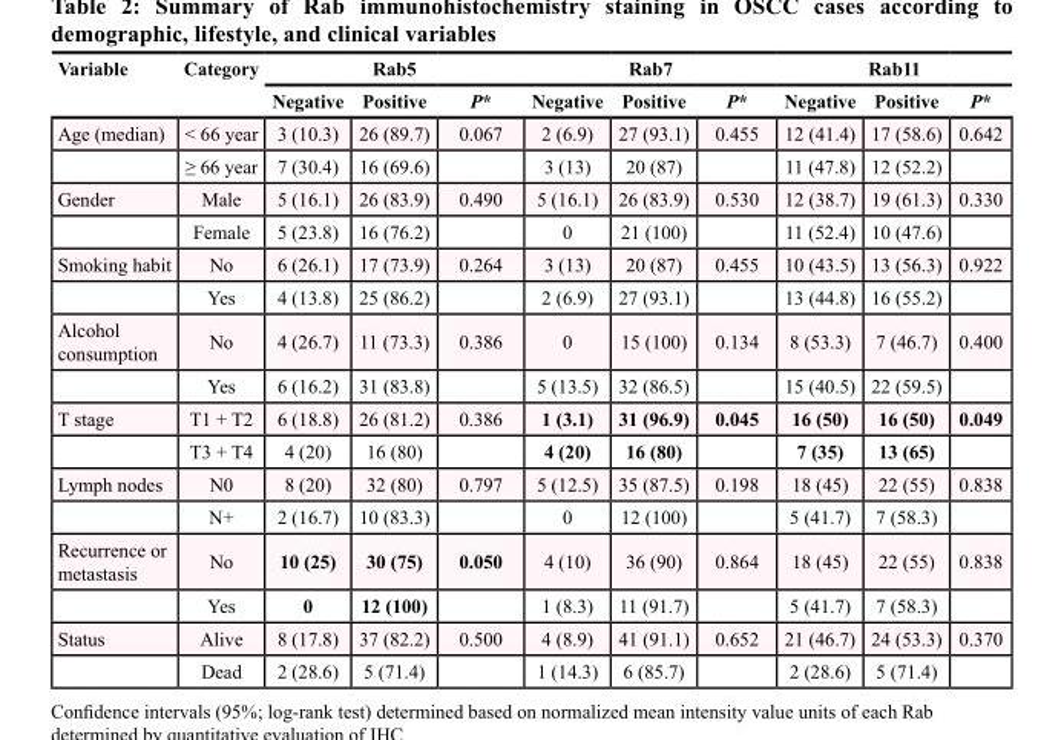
<table><thead><tr><td rowspan="2">Variable</td><td rowspan="2">Category</td><td colspan="3">Rab5</td><td colspan="3">Rab7</td><td colspan="3">Rab11</td></tr><tr><td>Negative</td><td>Positive</td><td>P*</td><td>Negative</td><td>Positive</td><td>P*</td><td>Negative</td><td>Positive</td><td>P*</td></tr></thead><tbody><tr><td rowspan="2">Age (median)</td><td>&lt; 66 year</td><td>3 (10.3)</td><td>26 (89.7)</td><td>0.067</td><td>2 (6.9)</td><td>27 (93.1)</td><td>0.455</td><td>12 (41.4)</td><td>17 (58.6)</td><td>0.642</td></tr><tr><td>≥ 66 year</td><td>7 (30.4)</td><td>16 (69.6)</td><td></td><td>3 (13)</td><td>20 (87)</td><td></td><td>11 (47.8)</td><td>12 (52.2)</td><td></td></tr><tr><td rowspan="2">Gender</td><td>Male</td><td>5 (16.1)</td><td>26 (83.9)</td><td>0.490</td><td>5 (16.1)</td><td>26 (83.9)</td><td>0.530</td><td>12 (38.7)</td><td>19 (61.3)</td><td>0.330</td></tr><tr><td>Female</td><td>5 (23.8)</td><td>16 (76.2)</td><td></td><td>0</td><td>21 (100)</td><td></td><td>11 (52.4)</td><td>10 (47.6)</td><td></td></tr><tr><td rowspan="2">Smoking habit</td><td>No</td><td>6 (26.1)</td><td>17 (73.9)</td><td>0.264</td><td>3 (13)</td><td>20 (87)</td><td>0.455</td><td>10 (43.5)</td><td>13 (56.3)</td><td>0.922</td></tr><tr><td>Yes</td><td>4 (13.8)</td><td>25 (86.2)</td><td></td><td>2 (6.9)</td><td>27 (93.1)</td><td></td><td>13 (44.8)</td><td>16 (55.2)</td><td></td></tr><tr><td rowspan="2">Alcohol consumption</td><td>No</td><td>4 (26.7)</td><td>11 (73.3)</td><td>0.386</td><td>0</td><td>15 (100)</td><td>0.134</td><td>8 (53.3)</td><td>7 (46.7)</td><td>0.400</td></tr><tr><td>Yes</td><td>6 (16.2)</td><td>31 (83.8)</td><td></td><td>5 (13.5)</td><td>32 (86.5)</td><td></td><td>15 (40.5)</td><td>22 (59.5)</td><td></td></tr><tr><td rowspan="2">T stage</td><td>T1 + T2</td><td>6 (18.8)</td><td>26 (81.2)</td><td>0.386</td><td>1 (3.1)</td><td>31 (96.9)</td><td>0.045</td><td>16 (50)</td><td>16 (50)</td><td>0.049</td></tr><tr><td>T3 + T4</td><td>4 (20)</td><td>16 (80)</td><td></td><td>4 (20)</td><td>16 (80)</td><td></td><td>7 (35)</td><td>13 (65)</td><td></td></tr><tr><td rowspan="2">Lymph nodes</td><td>N0</td><td>8 (20)</td><td>32 (80)</td><td>0.797</td><td>5 (12.5)</td><td>35 (87.5)</td><td>0.198</td><td>18 (45)</td><td>22 (55)</td><td>0.838</td></tr><tr><td>N+</td><td>2 (16.7)</td><td>10 (83.3)</td><td></td><td>0</td><td>12 (100)</td><td></td><td>5 (41.7)</td><td>7 (58.3)</td><td></td></tr><tr><td rowspan="2">Recurrence or metastasis</td><td>No</td><td>10 (25)</td><td>30 (75)</td><td>0.050</td><td>4 (10)</td><td>36 (90)</td><td>0.864</td><td>18 (45)</td><td>22 (55)</td><td>0.838</td></tr><tr><td>Yes</td><td>0</td><td>12 (100)</td><td></td><td>1 (8.3)</td><td>11 (91.7)</td><td></td><td>5 (41.7)</td><td>7 (58.3)</td><td></td></tr><tr><td rowspan="2">Status</td><td>Alive</td><td>8 (17.8)</td><td>37 (82.2)</td><td>0.500</td><td>4 (8.9)</td><td>41 (91.1)</td><td>0.652</td><td>21 (46.7)</td><td>24 (53.3)</td><td>0.370</td></tr><tr><td>Dead</td><td>2 (28.6)</td><td>5 (71.4)</td><td></td><td>1 (14.3)</td><td>6 (85.7)</td><td></td><td>2 (28.6)</td><td>5 (71.4)</td><td></td></tr></tbody></table>